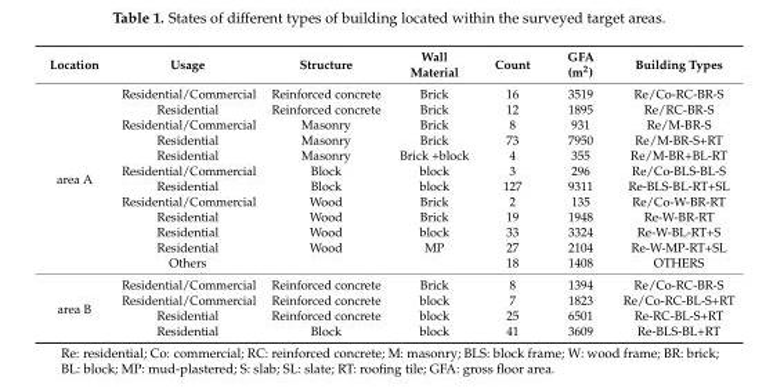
<table><thead><tr><td>Location</td><td>Usage</td><td>Structure</td><td>Wall Material</td><td>Count</td><td>GFA (m<sup>2</sup>)</td><td>Building Types</td></tr></thead><tbody><tr><td rowspan="12">area A</td><td>Residential/Commercial</td><td>Reinforced concrete</td><td>Brick</td><td>16</td><td>3519</td><td>Re/Co-RC-BR-S</td></tr><tr><td>Residential</td><td>Reinforced concrete</td><td>Brick</td><td>12</td><td>1895</td><td>Re/RC-BR-S</td></tr><tr><td>Residential/Commercial</td><td>Masonry</td><td>Brick</td><td>8</td><td>931</td><td>Re/M-BR-S</td></tr><tr><td>Residential</td><td>Masonry</td><td>Brick</td><td>73</td><td>7950</td><td>Re/M-BR-S+RT</td></tr><tr><td>Residential</td><td>Masonry</td><td>Brick +block</td><td>4</td><td>355</td><td>Re/M-BR+BL-RT</td></tr><tr><td>Residential/Commercial</td><td>Block</td><td>block</td><td>3</td><td>296</td><td>Re/Co-BLS-BL-S</td></tr><tr><td>Residential</td><td>Block</td><td>block</td><td>127</td><td>9311</td><td>Re-BLS-BL-RT+SL</td></tr><tr><td>Residential/Commercial</td><td>Wood</td><td>Brick</td><td>2</td><td>135</td><td>Re/Co-W-BR-RT</td></tr><tr><td>Residential</td><td>Wood</td><td>Brick</td><td>19</td><td>1948</td><td>Re-W-BR-RT</td></tr><tr><td>Residential</td><td>Wood</td><td>block</td><td>33</td><td>3324</td><td>Re-W-BL-RT+S</td></tr><tr><td>Residential</td><td>Wood</td><td>MP</td><td>27</td><td>2104</td><td>Re-W-MP-RT+SL</td></tr><tr><td>Others</td><td></td><td></td><td>18</td><td>1408</td><td>OTHERS</td></tr><tr><td rowspan="4">area B</td><td>Residential/Commercial</td><td>Reinforced concrete</td><td>Brick</td><td>8</td><td>1394</td><td>Re/Co-RC-BR-S</td></tr><tr><td>Residential/Commercial</td><td>Reinforced concrete</td><td>block</td><td>7</td><td>1823</td><td>Re/Co-RC-BL-S+RT</td></tr><tr><td>Residential</td><td>Reinforced concrete</td><td>block</td><td>25</td><td>6501</td><td>Re-RC-BL-S+RT</td></tr><tr><td>Residential</td><td>Block</td><td>block</td><td>41</td><td>3609</td><td>Re-BLS-BL+RT</td></tr></tbody></table>